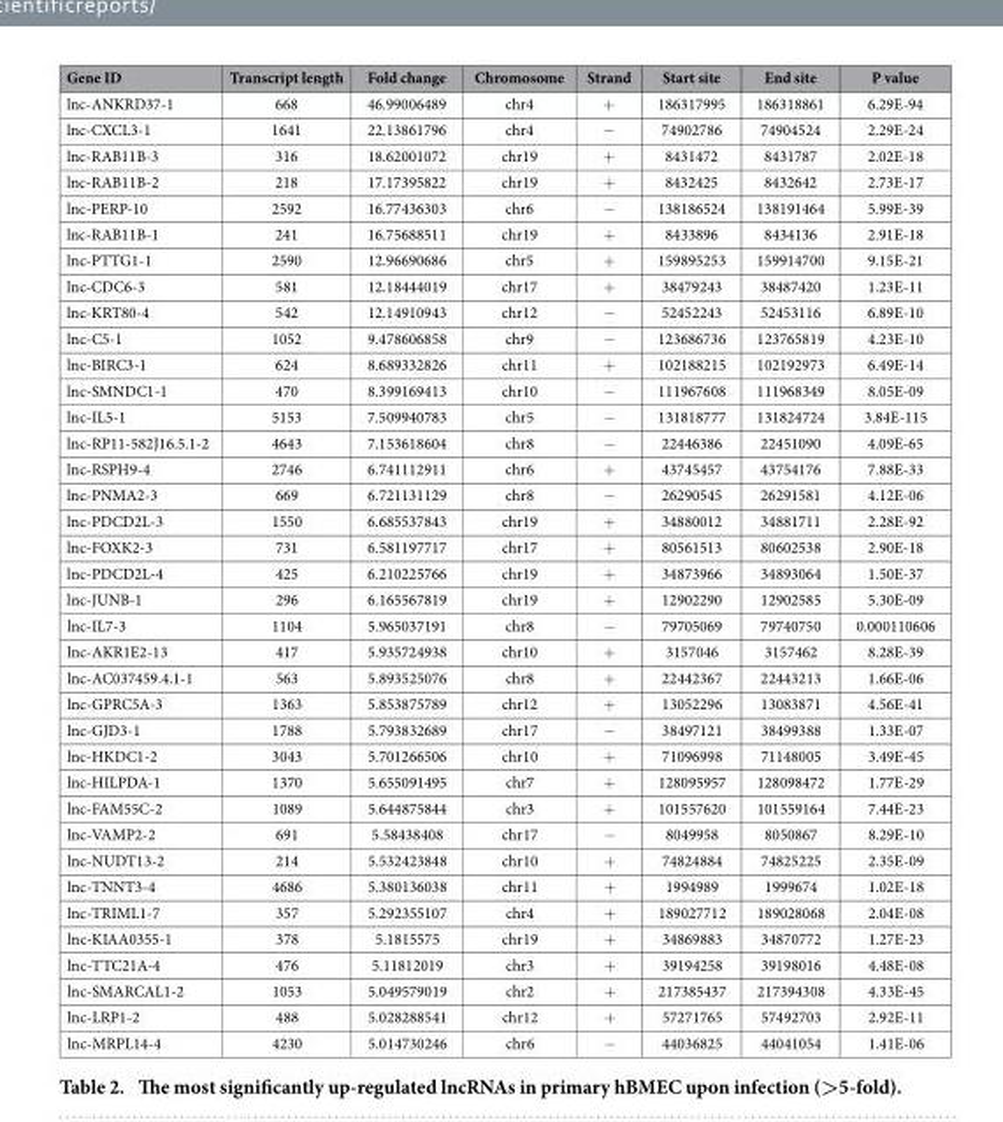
<table><thead><tr><td>Gene ID</td><td>Transcript length</td><td>Fold change</td><td>Chromosome</td><td>Strand</td><td>Start site</td><td>End site</td><td>P value</td></tr></thead><tbody><tr><td>lnc-ANKRD37-1</td><td>668</td><td>46.99006489</td><td>chr4</td><td>+</td><td>186317995</td><td>186318861</td><td>6.29E-94</td></tr><tr><td>lnc-CXCL3-1</td><td>1641</td><td>22.13861796</td><td>chr4</td><td>−</td><td>74902786</td><td>74904524</td><td>2.29E-24</td></tr><tr><td>lnc-RAB11B-3</td><td>316</td><td>18.62001072</td><td>chr19</td><td>+</td><td>8431472</td><td>8431787</td><td>2.02E-18</td></tr><tr><td>lnc-RAB11B-2</td><td>218</td><td>17.17395822</td><td>chr19</td><td>+</td><td>8432425</td><td>8432642</td><td>2.73E-17</td></tr><tr><td>lnc-PERP-10</td><td>2592</td><td>16.77436303</td><td>chr6</td><td>−</td><td>138186524</td><td>138191464</td><td>5.99E-39</td></tr><tr><td>lnc-RAB11B-1</td><td>241</td><td>16.75688511</td><td>chr19</td><td>+</td><td>8433896</td><td>8434136</td><td>2.91E-18</td></tr><tr><td>lnc-PTTG1-1</td><td>2590</td><td>12.96690686</td><td>chr5</td><td>+</td><td>159895253</td><td>159914700</td><td>9.15E-21</td></tr><tr><td>lnc-CDC6-3</td><td>581</td><td>12.18444019</td><td>chr17</td><td>+</td><td>38479243</td><td>38487420</td><td>1.23E-11</td></tr><tr><td>lnc-KRT80-4</td><td>542</td><td>12.14910943</td><td>chr12</td><td>−</td><td>52452243</td><td>52453116</td><td>6.89E-10</td></tr><tr><td>lnc-C5-1</td><td>1052</td><td>9.478606858</td><td>chr9</td><td>−</td><td>123686736</td><td>123765819</td><td>4.23E-10</td></tr><tr><td>lnc-BIRC3-1</td><td>624</td><td>8.689332826</td><td>chr11</td><td>+</td><td>102188215</td><td>102192973</td><td>6.49E-14</td></tr><tr><td>lnc-SMNDC1-1</td><td>470</td><td>8.399169413</td><td>chr10</td><td>−</td><td>111967608</td><td>111968349</td><td>8.05E-09</td></tr><tr><td>lnc-IL5-1</td><td>5153</td><td>7.509940783</td><td>chr5</td><td>−</td><td>131818777</td><td>131824724</td><td>3.84E-115</td></tr><tr><td>lnc-RP11-582J16.5.1-2</td><td>4643</td><td>7.153618604</td><td>chr8</td><td>−</td><td>22446386</td><td>22451090</td><td>4.09E-65</td></tr><tr><td>lnc-RSPH9-4</td><td>2746</td><td>6.741112911</td><td>chr6</td><td>+</td><td>43745457</td><td>43754176</td><td>7.88E-33</td></tr><tr><td>lnc-PNMA2-3</td><td>669</td><td>6.721131129</td><td>chr8</td><td>−</td><td>26290545</td><td>26291581</td><td>4.12E-06</td></tr><tr><td>lnc-PDCD2L-3</td><td>1550</td><td>6.685537843</td><td>chr19</td><td>+</td><td>34880012</td><td>34881711</td><td>2.28E-92</td></tr><tr><td>lnc-FOXK2-3</td><td>731</td><td>6.581197717</td><td>chr17</td><td>+</td><td>80561513</td><td>80602538</td><td>2.90E-18</td></tr><tr><td>lnc-PDCD2L-4</td><td>425</td><td>6.210225766</td><td>chr19</td><td>+</td><td>34873966</td><td>34893064</td><td>1.50E-37</td></tr><tr><td>lnc-JUNB-1</td><td>296</td><td>6.165567819</td><td>chr19</td><td>+</td><td>12902290</td><td>12902585</td><td>5.30E-09</td></tr><tr><td>lnc-IL7-3</td><td>1104</td><td>5.965037191</td><td>chr8</td><td>−</td><td>79705069</td><td>79740750</td><td>0.000110606</td></tr><tr><td>lnc-AKR1E2-13</td><td>417</td><td>5.935724938</td><td>chr10</td><td>+</td><td>3157046</td><td>3157462</td><td>8.28E-39</td></tr><tr><td>lnc-AC037459.4.1-1</td><td>563</td><td>5.893525076</td><td>chr8</td><td>+</td><td>22442367</td><td>22443213</td><td>1.66E-06</td></tr><tr><td>lnc-GPRC5A-3</td><td>1363</td><td>5.853875789</td><td>chr12</td><td>+</td><td>13052296</td><td>13083871</td><td>4.56E-41</td></tr><tr><td>lnc-GJD3-1</td><td>1788</td><td>5.793832689</td><td>chr17</td><td>−</td><td>38497121</td><td>38499388</td><td>1.33E-07</td></tr><tr><td>lnc-HKDC1-2</td><td>3043</td><td>5.701266506</td><td>chr10</td><td>+</td><td>71096998</td><td>71148005</td><td>3.49E-45</td></tr><tr><td>lnc-HILPDA-1</td><td>1370</td><td>5.655091495</td><td>chr7</td><td>+</td><td>128095957</td><td>128098472</td><td>1.77E-29</td></tr><tr><td>lnc-FAM55C-2</td><td>1089</td><td>5.644875844</td><td>chr3</td><td>+</td><td>101557620</td><td>101559164</td><td>7.44E-23</td></tr><tr><td>lnc-VAMP2-2</td><td>691</td><td>5.58438408</td><td>chr17</td><td>−</td><td>8049958</td><td>8050867</td><td>8.29E-10</td></tr><tr><td>lnc-NUDT13-2</td><td>214</td><td>5.532423848</td><td>chr10</td><td>+</td><td>74824884</td><td>74825225</td><td>2.35E-09</td></tr><tr><td>lnc-TNNT3-4</td><td>4686</td><td>5.380136038</td><td>chr11</td><td>+</td><td>1994989</td><td>1999674</td><td>1.02E-18</td></tr><tr><td>lnc-TRIML1-7</td><td>357</td><td>5.292355107</td><td>chr4</td><td>+</td><td>189027712</td><td>189028068</td><td>2.04E-08</td></tr><tr><td>lnc-KIAA0355-1</td><td>378</td><td>5.1815575</td><td>chr19</td><td>+</td><td>34869883</td><td>34870772</td><td>1.27E-23</td></tr><tr><td>lnc-TTC21A-4</td><td>476</td><td>5.11812019</td><td>chr3</td><td>+</td><td>39194258</td><td>39198016</td><td>4.48E-08</td></tr><tr><td>lnc-SMARCAL1-2</td><td>1053</td><td>5.049579019</td><td>chr2</td><td>+</td><td>217385437</td><td>217394308</td><td>4.33E-45</td></tr><tr><td>lnc-LRP1-2</td><td>488</td><td>5.028288541</td><td>chr12</td><td>+</td><td>57271765</td><td>57492703</td><td>2.92E-11</td></tr><tr><td>lnc-MRPL14-4</td><td>4230</td><td>5.014730246</td><td>chr6</td><td>−</td><td>44036825</td><td>44041054</td><td>1.41E-06</td></tr></tbody></table>